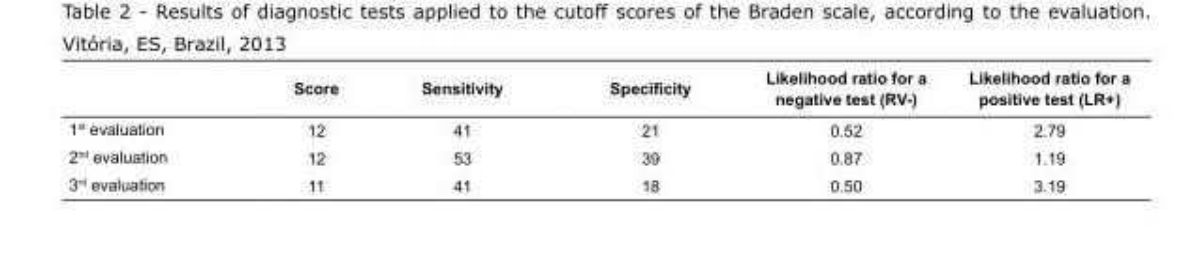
<table><thead><tr><td></td><td>Score</td><td>Sensitivity</td><td>Specificity</td><td>Likelihood ratio for a negative test (RV-)</td><td>Likelihood ratio for a positive test (LR+)</td></tr></thead><tbody><tr><td>1<sup>st</sup> evaluation</td><td>12</td><td>41</td><td>21</td><td>0.52</td><td>2.79</td></tr><tr><td>2<sup>nd</sup> evaluation</td><td>12</td><td>53</td><td>39</td><td>0.87</td><td>1.19</td></tr><tr><td>3<sup>rd</sup> evaluation</td><td>11</td><td>41</td><td>18</td><td>0.50</td><td>3.19</td></tr></tbody></table>